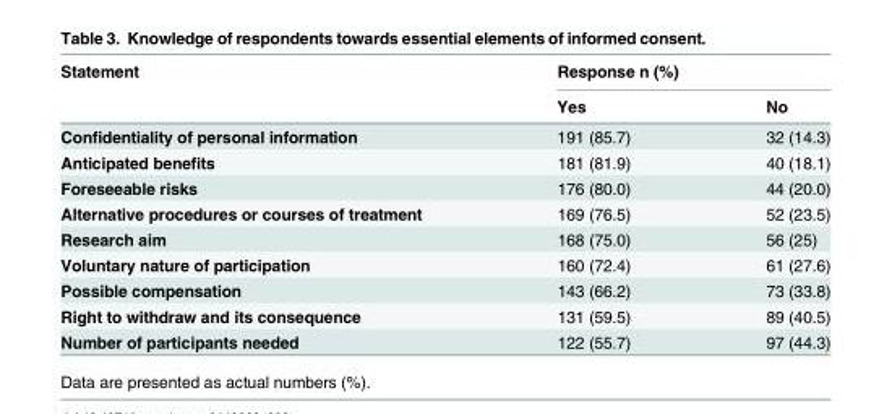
<table><thead><tr><td rowspan="2">Statement</td><td colspan="2">Response n (%)</td></tr><tr><td>Yes</td><td>No</td></tr></thead><tbody><tr><td>Confidentiality of personal information</td><td>191 (85.7)</td><td>32 (14.3)</td></tr><tr><td>Anticipated benefits</td><td>181 (81.9)</td><td>40 (18.1)</td></tr><tr><td>Foreseeable risks</td><td>176 (80.0)</td><td>44 (20.0)</td></tr><tr><td>Alternative procedures or courses of treatment</td><td>169 (76.5)</td><td>52 (23.5)</td></tr><tr><td>Research aim</td><td>168 (75.0)</td><td>56 (25)</td></tr><tr><td>Voluntary nature of participation</td><td>160 (72.4)</td><td>61 (27.6)</td></tr><tr><td>Possible compensation</td><td>143 (66.2)</td><td>73 (33.8)</td></tr><tr><td>Right to withdraw and its consequence</td><td>131 (59.5)</td><td>89 (40.5)</td></tr><tr><td>Number of participants needed</td><td>122 (55.7)</td><td>97 (44.3)</td></tr></tbody></table>